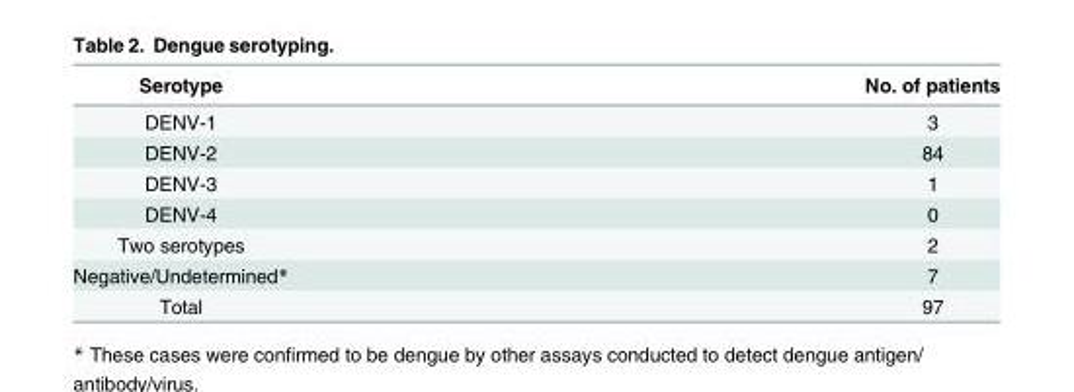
<table><thead><tr><td>Serotype</td><td>No. of patients</td></tr></thead><tbody><tr><td>DENV-1</td><td>3</td></tr><tr><td>DENV-2</td><td>84</td></tr><tr><td>DENV-3</td><td>1</td></tr><tr><td>DENV-4</td><td>0</td></tr><tr><td>Two serotypes</td><td>2</td></tr><tr><td>Negative/Undetermined*</td><td>7</td></tr><tr><td>Total</td><td>97</td></tr></tbody></table>